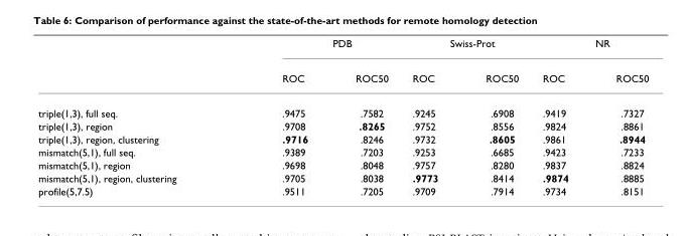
<table><thead><tr><td rowspan="2"></td><td colspan="2">PDB</td><td colspan="2">Swiss-Prot</td><td colspan="2">NR</td></tr><tr><td>ROC</td><td>ROC50</td><td>ROC</td><td>ROC50</td><td>ROC</td><td>ROC50</td></tr></thead><tbody><tr><td>triple(1,3), full seq.</td><td>.9475</td><td>.7582</td><td>.9245</td><td>.6908</td><td>.9419</td><td>.7327</td></tr><tr><td>triple(1,3), region</td><td>.9708</td><td>.8265</td><td>.9752</td><td>.8556</td><td>.9824</td><td>.8861</td></tr><tr><td>triple(1,3), region, clustering</td><td>.9716</td><td>.8246</td><td>.9732</td><td>.8605</td><td>.9861</td><td>.8944</td></tr><tr><td>mismatch(5,1), full seq.</td><td>.9389</td><td>.7203</td><td>.9253</td><td>.6685</td><td>.9423</td><td>.7233</td></tr><tr><td>mismatch(5,1), region</td><td>.9698</td><td>.8048</td><td>.9757</td><td>.8280</td><td>.9837</td><td>.8824</td></tr><tr><td>mismatch(5,1), region, clustering</td><td>.9705</td><td>.8038</td><td>.9773</td><td>.8414</td><td>.9874</td><td>.8885</td></tr><tr><td>profile(5,7.5)</td><td>.9511</td><td>.7205</td><td>.9709</td><td>.7914</td><td>.9734</td><td>.8151</td></tr></tbody></table>